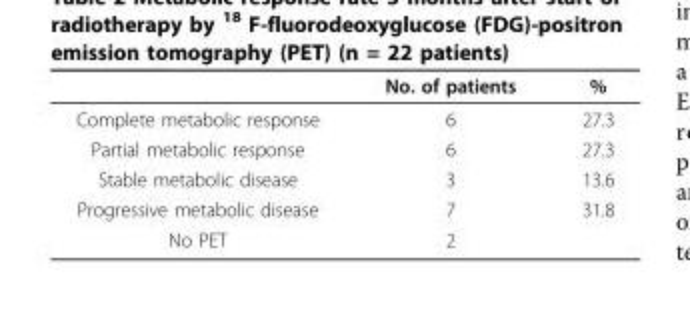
<table><thead><tr><td></td><td>No. of patients</td><td>%</td></tr></thead><tbody><tr><td>Complete metabolic response</td><td>6</td><td>27.3</td></tr><tr><td>Partial metabolic response</td><td>6</td><td>27.3</td></tr><tr><td>Stable metabolic disease</td><td>3</td><td>13.6</td></tr><tr><td>Progressive metabolic disease</td><td>7</td><td>31.8</td></tr><tr><td>No PET</td><td>2</td><td></td></tr></tbody></table>